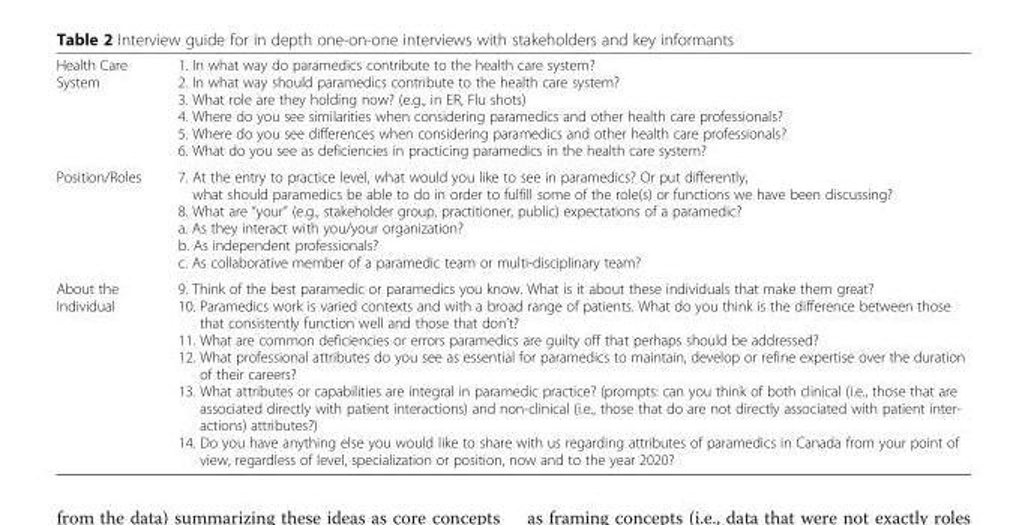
<table><tbody><tr><td>Health Care System</td><td>1. In what way do paramedics contribute to the health care system? 2. In what way should paramedics contribute to the health care system? 3. What role are they holding now? (e.g., in ER, Flu shots) 4. Where do you see similarities when considering paramedics and other health care professionals? 5. Where do you see differences when considering paramedics and other health care professionals? 6. What do you see as deficiencies in practicing paramedics in the health care system?</td></tr><tr><td>Position/Roles</td><td>7. At the entry to practice level, what would you like to see in paramedics? Or put differently, what should paramedics be able to do in order to fulfill some of the role(s) or functions we have been discussing? 8. What are “your” (e.g., stakeholder group, practitioner, public) expectations of a paramedic? a. As they interact with you/your organization? b. As independent professionals? c. As collaborative member of a paramedic team or multi-disciplinary team?</td></tr><tr><td>About the Individual</td><td>9. Think of the best paramedic or paramedics you know. What is it about these individuals that make them great? 10. Paramedics work is varied contexts and with a broad range of patients. What do you think is the difference between those that consistently function well and those that don’t? 11. What are common deficiencies or errors paramedics are guilty off that perhaps should be addressed? 12. What professional attributes do you see as essential for paramedics to maintain, develop or refine expertise over the duration of their careers? 13. What attributes or capabilities are integral in paramedic practice? (prompts: can you think of both clinical (i.e., those that are associated directly with patient interactions) and non-clinical (i.e., those that do are not directly associated with patient inter- actions) attributes?) 14. Do you have anything else you would like to share with us regarding attributes of paramedics in Canada from your point of view, regardless of level, specialization or position, now and to the year 2020?</td></tr></tbody></table>